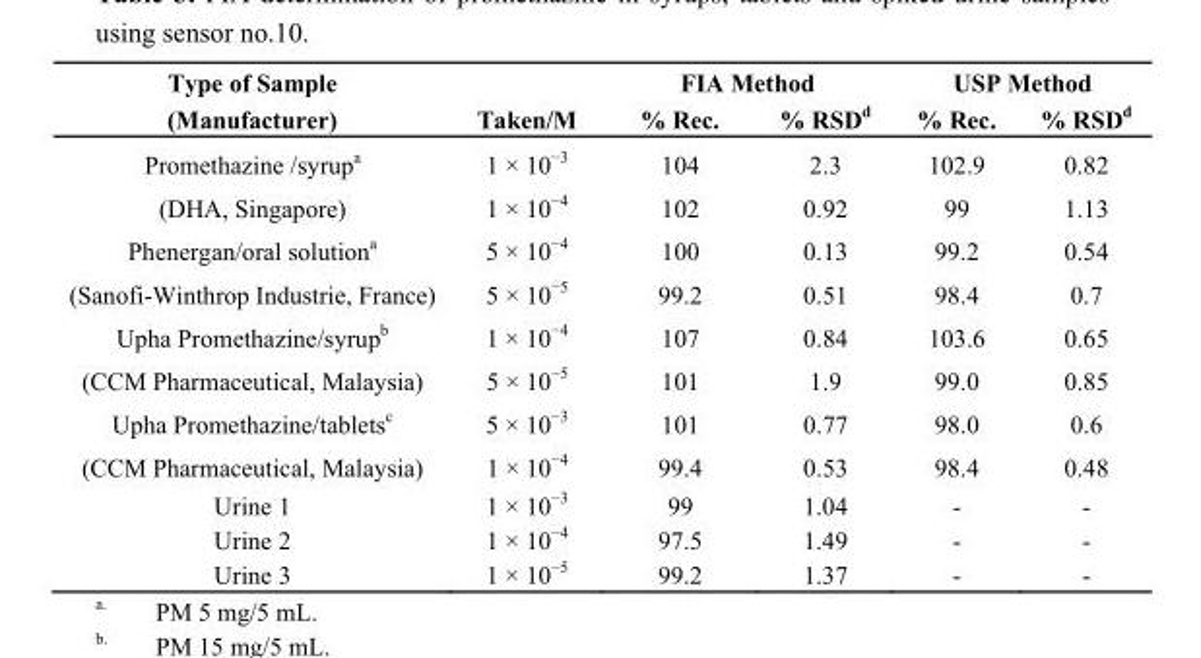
<table><thead><tr><td rowspan="2">Type of Sample (Manufacturer)</td><td rowspan="2">Taken/M</td><td colspan="2">FIA Method</td><td colspan="2">USP Method</td></tr><tr><td>% Rec.</td><td>% RSD<sup>d</sup></td><td>% Rec.</td><td>% RSD<sup>d</sup></td></tr></thead><tbody><tr><td>Promethazine /syrup<sup>a</sup></td><td>1 × 10<sup>−3</sup></td><td>104</td><td>2.3</td><td>102.9</td><td>0.82</td></tr><tr><td>(DHA, Singapore)</td><td>1 × 10<sup>−4</sup></td><td>102</td><td>0.92</td><td>99</td><td>1.13</td></tr><tr><td>Phenergan/oral solution<sup>a</sup></td><td>5 × 10<sup>−4</sup></td><td>100</td><td>0.13</td><td>99.2</td><td>0.54</td></tr><tr><td>(Sanofi-Winthrop Industrie, France)</td><td>5 × 10<sup>−5</sup></td><td>99.2</td><td>0.51</td><td>98.4</td><td>0.7</td></tr><tr><td>Upha Promethazine/syrup<sup>b</sup></td><td>1 × 10<sup>−4</sup></td><td>107</td><td>0.84</td><td>103.6</td><td>0.65</td></tr><tr><td>(CCM Pharmaceutical, Malaysia)</td><td>5 × 10<sup>−5</sup></td><td>101</td><td>1.9</td><td>99.0</td><td>0.85</td></tr><tr><td>Upha Promethazine/tablets<sup>c</sup></td><td>5 × 10<sup>−3</sup></td><td>101</td><td>0.77</td><td>98.0</td><td>0.6</td></tr><tr><td>(CCM Pharmaceutical, Malaysia)</td><td>1 × 10<sup>−4</sup></td><td>99.4</td><td>0.53</td><td>98.4</td><td>0.48</td></tr><tr><td>Urine 1</td><td>1 × 10<sup>−3</sup></td><td>99</td><td>1.04</td><td>-</td><td>-</td></tr><tr><td>Urine 2</td><td>1 × 10<sup>−4</sup></td><td>97.5</td><td>1.49</td><td>-</td><td>-</td></tr><tr><td>Urine 3</td><td>1 × 10<sup>−5</sup></td><td>99.2</td><td>1.37</td><td>-</td><td>-</td></tr></tbody></table>